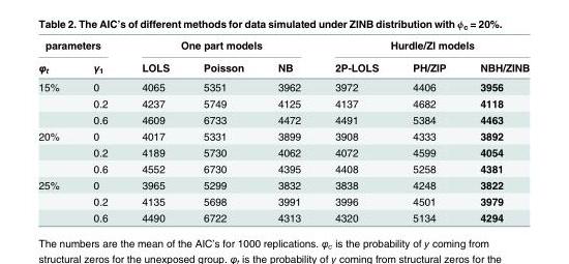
<table><thead><tr><td colspan="2">parameters</td><td colspan="3">One part models</td><td colspan="3">Hurdle/ZI models</td></tr><tr><td>φ<sub>t</sub></td><td>γ<sub>1</sub></td><td>LOLS</td><td>Poisson</td><td>NB</td><td>2P-LOLS</td><td>PH/ZIP</td><td>NBH/ZINB</td></tr></thead><tbody><tr><td rowspan="3">15%</td><td>0</td><td>4065</td><td>5351</td><td>3962</td><td>3972</td><td>4406</td><td>3956</td></tr><tr><td>0.2</td><td>4237</td><td>5749</td><td>4125</td><td>4137</td><td>4682</td><td>4118</td></tr><tr><td>0.6</td><td>4609</td><td>6733</td><td>4472</td><td>4491</td><td>5384</td><td>4463</td></tr><tr><td rowspan="3">20%</td><td>0</td><td>4017</td><td>5331</td><td>3899</td><td>3908</td><td>4333</td><td>3892</td></tr><tr><td>0.2</td><td>4189</td><td>5730</td><td>4062</td><td>4072</td><td>4599</td><td>4054</td></tr><tr><td>0.6</td><td>4552</td><td>6730</td><td>4395</td><td>4408</td><td>5258</td><td>4381</td></tr><tr><td rowspan="3">25%</td><td>0</td><td>3965</td><td>5299</td><td>3832</td><td>3838</td><td>4248</td><td>3822</td></tr><tr><td>0.2</td><td>4135</td><td>5698</td><td>3991</td><td>3996</td><td>4501</td><td>3979</td></tr><tr><td>0.6</td><td>4490</td><td>6722</td><td>4313</td><td>4320</td><td>5134</td><td>4294</td></tr></tbody></table>